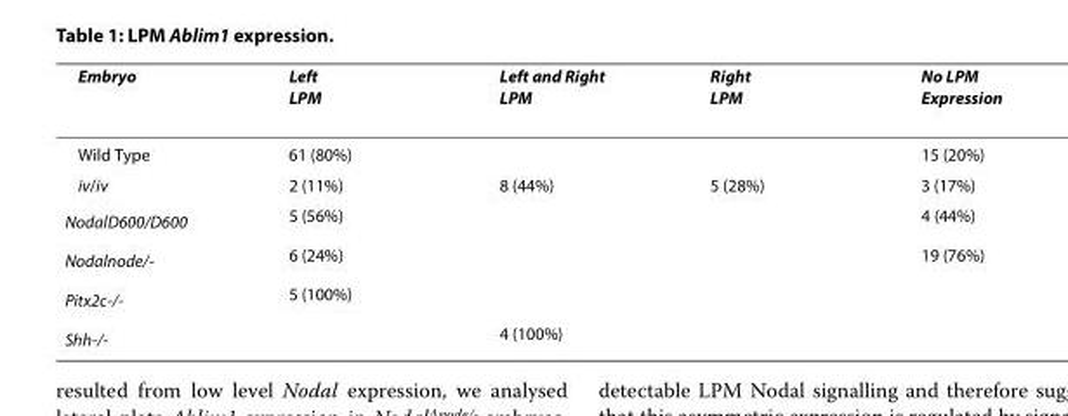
<table><thead><tr><td>Embryo</td><td>Left LPM</td><td>Left and Right LPM</td><td>Right LPM</td><td>No LPM Expression</td></tr></thead><tbody><tr><td>Wild Type</td><td>61 (80%)</td><td></td><td></td><td>15 (20%)</td></tr><tr><td>iv/iv</td><td>2 (11%)</td><td>8 (44%)</td><td>5 (28%)</td><td>3 (17%)</td></tr><tr><td>Nodal<sup>D600/D600</sup></td><td>5 (56%)</td><td></td><td></td><td>4 (44%)</td></tr><tr><td>Nodal<sup>node/-</sup></td><td>6 (24%)</td><td></td><td></td><td>19 (76%)</td></tr><tr><td>Pitx2c<sup>-/-</sup></td><td>5 (100%)</td><td></td><td></td><td></td></tr><tr><td>Shh<sup>-/-</sup></td><td></td><td>4 (100%)</td><td></td><td></td></tr></tbody></table>